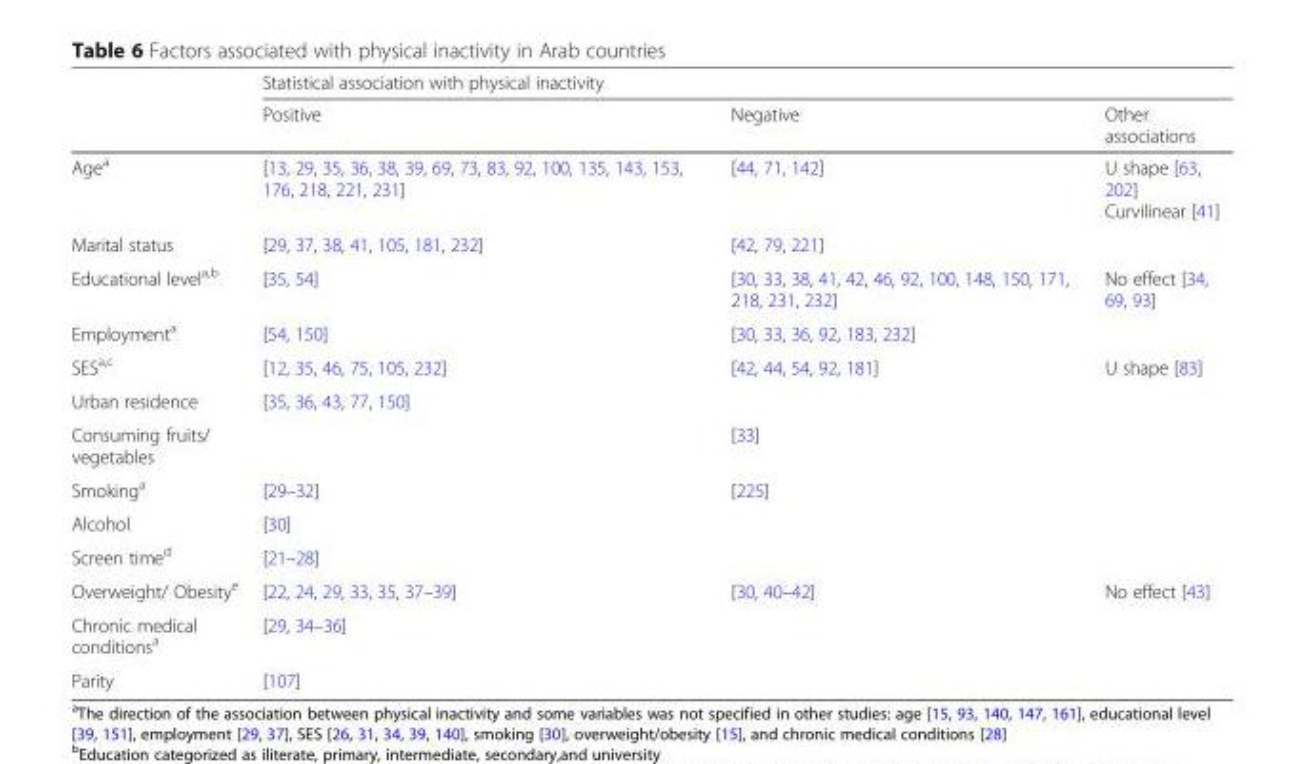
<table><thead><tr><td rowspan="2"></td><td colspan="3">Statistical association with physical inactivity</td></tr><tr><td>Positive</td><td>Negative</td><td>Other associations</td></tr></thead><tbody><tr><td>Age<sup>a</sup></td><td>[13, 29, 35, 36, 38, 39, 69, 73, 83, 92, 100, 135, 143, 153, 176, 218, 221, 231]</td><td>[44, 71, 142]</td><td>U shape [63, 202] Curvilinear [41]</td></tr><tr><td>Marital status</td><td>[29, 37, 38, 41, 105, 181, 232]</td><td>[42, 79, 221]</td><td></td></tr><tr><td>Educational level<sup>a,b</sup></td><td>[35, 54]</td><td>[30, 33, 38, 41, 42, 46, 92, 100, 148, 150, 171, 218, 231, 232]</td><td>No effect [34, 69, 93]</td></tr><tr><td>Employment<sup>a</sup></td><td>[54, 150]</td><td>[30, 33, 36, 92, 183, 232]</td><td></td></tr><tr><td>SES<sup>a,c</sup></td><td>[12, 35, 46, 75, 105, 232]</td><td>[42, 44, 54, 92, 181]</td><td>U shape [83]</td></tr><tr><td>Urban residence</td><td>[35, 36, 43, 77, 150]</td><td></td><td></td></tr><tr><td>Consuming fruits/ vegetables</td><td></td><td>[33]</td><td></td></tr><tr><td>Smoking<sup>a</sup></td><td>[29–32]</td><td>[225]</td><td></td></tr><tr><td>Alcohol</td><td>[30]</td><td></td><td></td></tr><tr><td>Screen time<sup>d</sup></td><td>[21–28]</td><td></td><td></td></tr><tr><td>Overweight/ Obesity<sup>e</sup></td><td>[22, 24, 29, 33, 35, 37–39]</td><td>[30, 40–42]</td><td>No effect [43]</td></tr><tr><td>Chronic medical conditions<sup>a</sup></td><td>[29, 34–36]</td><td></td><td></td></tr><tr><td>Parity</td><td>[107]</td><td></td><td></td></tr></tbody></table>